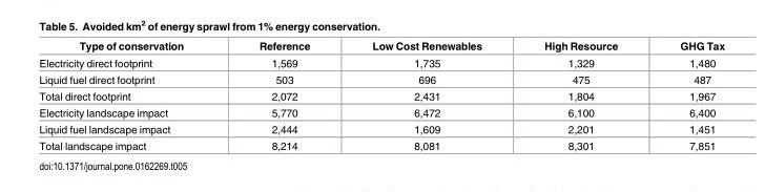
<table><thead><tr><td>Type of conservation</td><td>Reference</td><td>Low Cost Renewables</td><td>High Resource</td><td>GHG Tax</td></tr></thead><tbody><tr><td>Electricity direct footprint</td><td>1,569</td><td>1,735</td><td>1,329</td><td>1,480</td></tr><tr><td>Liquid fuel direct footprint</td><td>503</td><td>696</td><td>475</td><td>487</td></tr><tr><td>Total direct footprint</td><td>2,072</td><td>2,431</td><td>1,804</td><td>1,967</td></tr><tr><td>Electricity landscape impact</td><td>5,770</td><td>6,472</td><td>6,100</td><td>6,400</td></tr><tr><td>Liquid fuel landscape impact</td><td>2,444</td><td>1,609</td><td>2,201</td><td>1,451</td></tr><tr><td>Total landscape impact</td><td>8,214</td><td>8,081</td><td>8,301</td><td>7,851</td></tr></tbody></table>